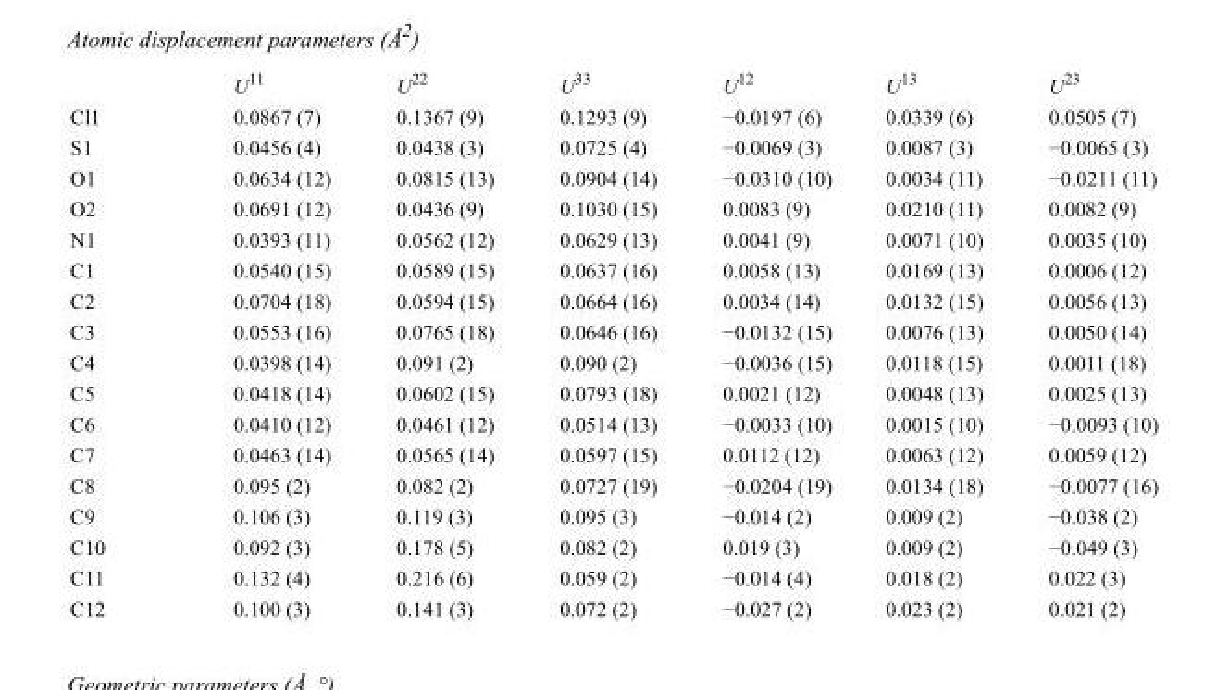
<table><thead><tr><td></td><td>U<sup>11</sup></td><td>U<sup>22</sup></td><td>U<sup>33</sup></td><td>U<sup>12</sup></td><td>U<sup>13</sup></td><td>U<sup>23</sup></td></tr></thead><tbody><tr><td>Cl1</td><td>0.0867 (7)</td><td>0.1367 (9)</td><td>0.1293 (9)</td><td>−0.0197 (6)</td><td>0.0339 (6)</td><td>0.0505 (7)</td></tr><tr><td>S1</td><td>0.0456 (4)</td><td>0.0438 (3)</td><td>0.0725 (4)</td><td>−0.0069 (3)</td><td>0.0087 (3)</td><td>−0.0065 (3)</td></tr><tr><td>O1</td><td>0.0634 (12)</td><td>0.0815 (13)</td><td>0.0904 (14)</td><td>−0.0310 (10)</td><td>0.0034 (11)</td><td>−0.0211 (11)</td></tr><tr><td>O2</td><td>0.0691 (12)</td><td>0.0436 (9)</td><td>0.1030 (15)</td><td>0.0083 (9)</td><td>0.0210 (11)</td><td>0.0082 (9)</td></tr><tr><td>N1</td><td>0.0393 (11)</td><td>0.0562 (12)</td><td>0.0629 (13)</td><td>0.0041 (9)</td><td>0.0071 (10)</td><td>0.0035 (10)</td></tr><tr><td>C1</td><td>0.0540 (15)</td><td>0.0589 (15)</td><td>0.0637 (16)</td><td>0.0058 (13)</td><td>0.0169 (13)</td><td>0.0006 (12)</td></tr><tr><td>C2</td><td>0.0704 (18)</td><td>0.0594 (15)</td><td>0.0664 (16)</td><td>0.0034 (14)</td><td>0.0132 (15)</td><td>0.0056 (13)</td></tr><tr><td>C3</td><td>0.0553 (16)</td><td>0.0765 (18)</td><td>0.0646 (16)</td><td>−0.0132 (15)</td><td>0.0076 (13)</td><td>0.0050 (14)</td></tr><tr><td>C4</td><td>0.0398 (14)</td><td>0.091 (2)</td><td>0.090 (2)</td><td>−0.0036 (15)</td><td>0.0118 (15)</td><td>0.0011 (18)</td></tr><tr><td>C5</td><td>0.0418 (14)</td><td>0.0602 (15)</td><td>0.0793 (18)</td><td>0.0021 (12)</td><td>0.0048 (13)</td><td>0.0025 (13)</td></tr><tr><td>C6</td><td>0.0410 (12)</td><td>0.0461 (12)</td><td>0.0514 (13)</td><td>−0.0033 (10)</td><td>0.0015 (10)</td><td>−0.0093 (10)</td></tr><tr><td>C7</td><td>0.0463 (14)</td><td>0.0565 (14)</td><td>0.0597 (15)</td><td>0.0112 (12)</td><td>0.0063 (12)</td><td>0.0059 (12)</td></tr><tr><td>C8</td><td>0.095 (2)</td><td>0.082 (2)</td><td>0.0727 (19)</td><td>−0.0204 (19)</td><td>0.0134 (18)</td><td>−0.0077 (16)</td></tr><tr><td>C9</td><td>0.106 (3)</td><td>0.119 (3)</td><td>0.095 (3)</td><td>−0.014 (2)</td><td>0.009 (2)</td><td>−0.038 (2)</td></tr><tr><td>C10</td><td>0.092 (3)</td><td>0.178 (5)</td><td>0.082 (2)</td><td>0.019 (3)</td><td>0.009 (2)</td><td>−0.049 (3)</td></tr><tr><td>C11</td><td>0.132 (4)</td><td>0.216 (6)</td><td>0.059 (2)</td><td>−0.014 (4)</td><td>0.018 (2)</td><td>0.022 (3)</td></tr><tr><td>C12</td><td>0.100 (3)</td><td>0.141 (3)</td><td>0.072 (2)</td><td>−0.027 (2)</td><td>0.023 (2)</td><td>0.021 (2)</td></tr></tbody></table>